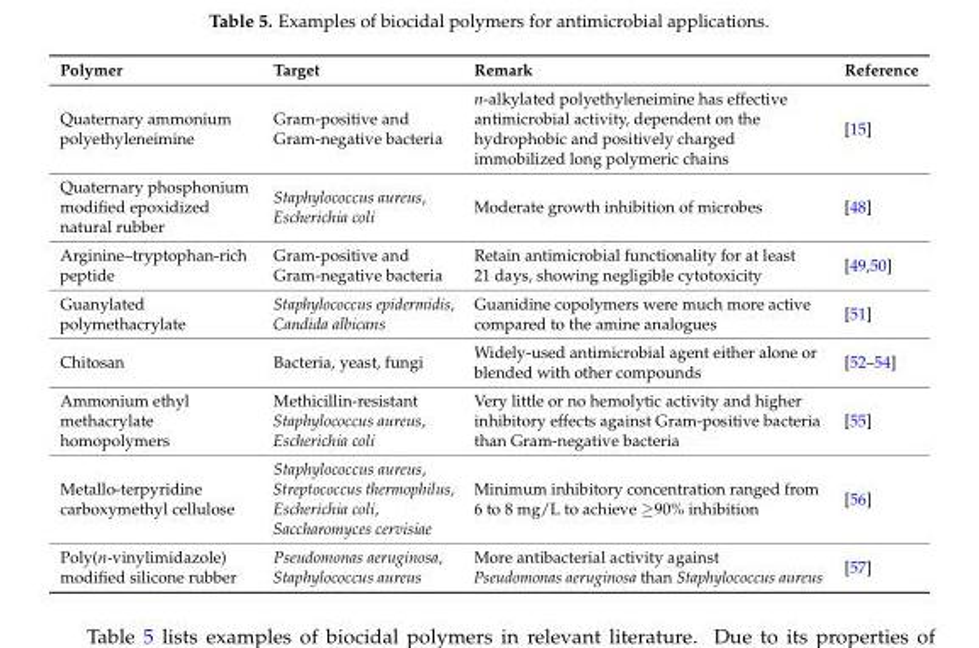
<table><thead><tr><td>Polymer</td><td>Target</td><td>Remark</td><td>Reference</td></tr></thead><tbody><tr><td>Quaternary ammonium polyethyleneimine</td><td>Gram-positive and Gram-negative bacteria</td><td>n-alkylated polyethyleneimine has effective antimicrobial activity, dependent on the hydrophobic and positively charged immobilized long polymeric chains</td><td>[15]</td></tr><tr><td>Quaternary phosphonium modified epoxidized natural rubber</td><td>Staphylococcus aureus, Escherichia coli</td><td>Moderate growth inhibition of microbes</td><td>[48]</td></tr><tr><td>Arginine–tryptophan-rich peptide</td><td>Gram-positive and Gram-negative bacteria</td><td>Retain antimicrobial functionality for at least 21 days, showing negligible cytotoxicity</td><td>[49,50]</td></tr><tr><td>Guanylated polymethacrylate</td><td>Staphylococcus epidermidis, Candida albicans</td><td>Guanidine copolymers were much more active compared to the amine analogues</td><td>[51]</td></tr><tr><td>Chitosan</td><td>Bacteria, yeast, fungi</td><td>Widely-used antimicrobial agent either alone or blended with other compounds</td><td>[52–54]</td></tr><tr><td>Ammonium ethyl methacrylate homopolymers</td><td>Methicillin-resistant Staphylococcus aureus, Escherichia coli</td><td>Very little or no hemolytic activity and higher inhibitory effects against Gram-positive bacteria than Gram-negative bacteria</td><td>[55]</td></tr><tr><td>Metallo-terpyridine carboxymethyl cellulose</td><td>Staphylococcus aureus, Streptococcus thermophilus, Escherichia coli, Saccharomyces cervisiae</td><td>Minimum inhibitory concentration ranged from 6 to 8 mg/L to achieve ≥90% inhibition</td><td>[56]</td></tr><tr><td>Poly(n-vinylimidazole) modified silicone rubber</td><td>Pseudomonas aeruginosa, Staphylococcus aureus</td><td>More antibacterial activity against Pseudomonas aeruginosa than Staphylococcus aureus</td><td>[57]</td></tr></tbody></table>